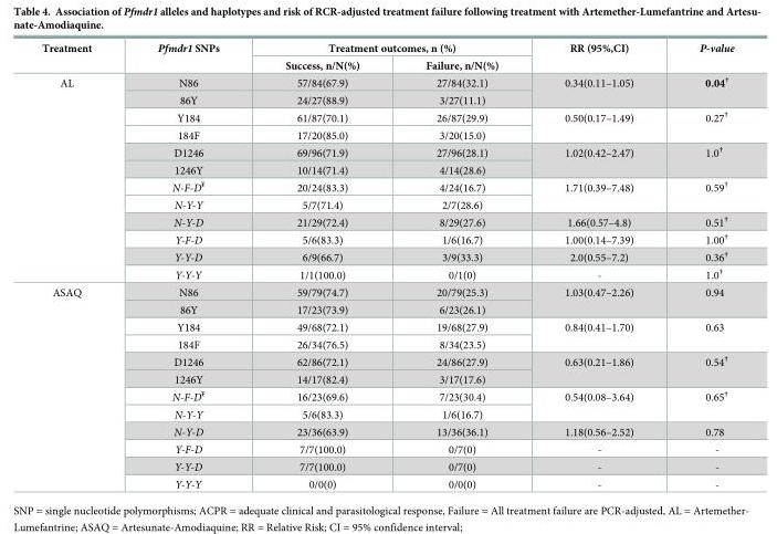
<table><thead><tr><td rowspan="2">Treatment</td><td rowspan="2">Pfmdr1 SNPs</td><td colspan="2">Treatment outcomes, n (%)</td><td rowspan="2">RR (95%,CI)</td><td rowspan="2">P-value</td></tr><tr><td>Success, n/N(%)</td><td>Failure, n/N(%)</td></tr></thead><tbody><tr><td rowspan="12">AL</td><td>N86</td><td>57/84(67.9)</td><td>27/84(32.1)</td><td rowspan="2">0.34(0.11–1.05)</td><td rowspan="2">0.04<sup>†</sup></td></tr><tr><td>86Y</td><td>24/27(88.9)</td><td>3/27(11.1)</td></tr><tr><td>Y184</td><td>61/87(70.1)</td><td>26/87(29.9)</td><td rowspan="2">0.50(0.17–1.49)</td><td rowspan="2">0.27<sup>†</sup></td></tr><tr><td>184F</td><td>17/20(85.0)</td><td>3/20(15.0)</td></tr><tr><td>D1246</td><td>69/96(71.9)</td><td>27/96(28.1)</td><td rowspan="2">1.02(0.42–2.47)</td><td rowspan="2">1.0<sup>†</sup></td></tr><tr><td>1246Y</td><td>10/14(71.4)</td><td>4/14(28.6)</td></tr><tr><td>N-F-D<sup>¥</sup></td><td>20/24(83.3)</td><td>4/24(16.7)</td><td rowspan="2">1.71(0.39–7.48)</td><td rowspan="2">0.59<sup>†</sup></td></tr><tr><td>N-Y-Y</td><td>5/7(71.4)</td><td>2/7(28.6)</td></tr><tr><td>N-Y-D</td><td>21/29(72.4)</td><td>8/29(27.6)</td><td>1.66(0.57–4.8)</td><td>0.51<sup>†</sup></td></tr><tr><td>Y-F-D</td><td>5/6(83.3)</td><td>1/6(16.7)</td><td>1.00(0.14–7.39)</td><td>1.00<sup>†</sup></td></tr><tr><td>Y-Y-D</td><td>6/9(66.7)</td><td>3/9(33.3)</td><td>2.0(0.55–7.2)</td><td>0.36<sup>†</sup></td></tr><tr><td>Y-Y-Y</td><td>1/1(100.0)</td><td>0/1(0)</td><td>-</td><td>1.0<sup>†</sup></td></tr><tr><td rowspan="12">ASAQ</td><td>N86</td><td>59/79(74.7)</td><td>20/79(25.3)</td><td rowspan="2">1.03(0.47–2.26)</td><td rowspan="2">0.94</td></tr><tr><td>86Y</td><td>17/23(73.9)</td><td>6/23(26.1)</td></tr><tr><td>Y184</td><td>49/68(72.1)</td><td>19/68(27.9)</td><td rowspan="2">0.84(0.41–1.70)</td><td rowspan="2">0.63</td></tr><tr><td>184F</td><td>26/34(76.5)</td><td>8/34(23.5)</td></tr><tr><td>D1246</td><td>62/86(72.1)</td><td>24/86(27.9)</td><td rowspan="2">0.63(0.21–1.86)</td><td rowspan="2">0.54<sup>†</sup></td></tr><tr><td>1246Y</td><td>14/17(82.4)</td><td>3/17(17.6)</td></tr><tr><td>N-F-D<sup>¥</sup></td><td>16/23(69.6)</td><td>7/23(30.4)</td><td rowspan="2">0.54(0.08–3.64)</td><td rowspan="2">0.65<sup>†</sup></td></tr><tr><td>N-Y-Y</td><td>5/6(83.3)</td><td>1/6(16.7)</td></tr><tr><td>N-Y-D</td><td>23/36(63.9)</td><td>13/36(36.1)</td><td>1.18(0.56–2.52)</td><td>0.78</td></tr><tr><td>Y-F-D</td><td>7/7(100.0)</td><td>0/7(0)</td><td>-</td><td>-</td></tr><tr><td>Y-Y-D</td><td>7/7(100.0)</td><td>0/7(0)</td><td>-</td><td>-</td></tr><tr><td>Y-Y-Y</td><td>0/0(0)</td><td>0/0(0)</td><td>-</td><td>-</td></tr></tbody></table>